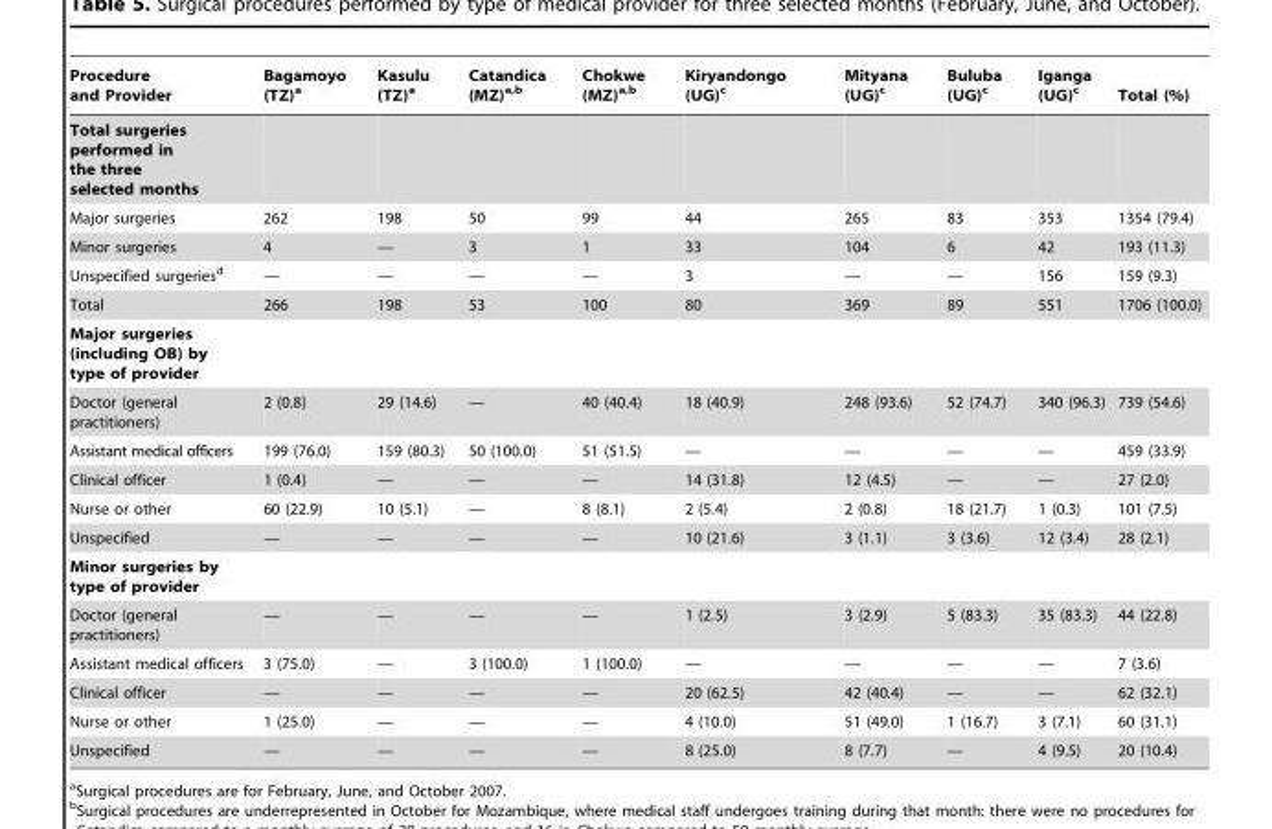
<table><thead><tr><td>Procedure and Provider</td><td>Bagamoyo (TZ)<sup>a</sup></td><td>Kasulu (TZ)<sup>a</sup></td><td>Catandica (MZ)a,b</td><td>Chokwe (MZ)a,b</td><td>Kiryandongo (UG)<sup>c</sup></td><td>Mityana (UG)<sup>c</sup></td><td>Buluba (UG)<sup>c</sup></td><td>Iganga (UG)<sup>c</sup></td><td>Total (%)</td></tr></thead><tbody><tr><td colspan="10">Total surgeries performed in the three selected months</td></tr><tr><td>Major surgeries</td><td>262</td><td>198</td><td>50</td><td>99</td><td>44</td><td>265</td><td>83</td><td>353</td><td>1354 (79.4)</td></tr><tr><td>Minor surgeries</td><td>4</td><td>—</td><td>3</td><td>1</td><td>33</td><td>104</td><td>6</td><td>42</td><td>193 (11.3)</td></tr><tr><td>Unspecified surgeries<sup>d</sup></td><td>—</td><td>—</td><td>—</td><td>—</td><td>3</td><td>—</td><td>—</td><td>156</td><td>159 (9.3)</td></tr><tr><td>Total</td><td>266</td><td>198</td><td>53</td><td>100</td><td>80</td><td>369</td><td>89</td><td>551</td><td>1706 (100.0)</td></tr><tr><td colspan="10">Major surgeries (including OB) by type of provider</td></tr><tr><td>Doctor (general practitioners)</td><td>2 (0.8)</td><td>29 (14.6)</td><td>—</td><td>40 (40.4)</td><td>18 (40.9)</td><td>248 (93.6)</td><td>52 (74.7)</td><td>340 (96.3)</td><td>739 (54.6)</td></tr><tr><td>Assistant medical officers</td><td>199 (76.0)</td><td>159 (80.3)</td><td>50 (100.0)</td><td>51 (51.5)</td><td>—</td><td>—</td><td>—</td><td>—</td><td>459 (33.9)</td></tr><tr><td>Clinical officer</td><td>1 (0.4)</td><td>—</td><td>—</td><td>—</td><td>14 (31.8)</td><td>12 (4.5)</td><td>—</td><td>—</td><td>27 (2.0)</td></tr><tr><td>Nurse or other</td><td>60 (22.9)</td><td>10 (5.1)</td><td>—</td><td>8 (8.1)</td><td>2 (5.4)</td><td>2 (0.8)</td><td>18 (21.7)</td><td>1 (0.3)</td><td>101 (7.5)</td></tr><tr><td>Unspecified</td><td>—</td><td>—</td><td>—</td><td>—</td><td>10 (21.6)</td><td>3 (1.1)</td><td>3 (3.6)</td><td>12 (3.4)</td><td>28 (2.1)</td></tr><tr><td colspan="10">Minor surgeries by type of provider</td></tr><tr><td>Doctor (general practitioners)</td><td>—</td><td>—</td><td>—</td><td>—</td><td>1 (2.5)</td><td>3 (2.9)</td><td>5 (83.3)</td><td>35 (83.3)</td><td>44 (22.8)</td></tr><tr><td>Assistant medical officers</td><td>3 (75.0)</td><td>—</td><td>3 (100.0)</td><td>1 (100.0)</td><td>—</td><td>—</td><td>—</td><td>—</td><td>7 (3.6)</td></tr><tr><td>Clinical officer</td><td>—</td><td>—</td><td>—</td><td>—</td><td>20 (62.5)</td><td>42 (40.4)</td><td>—</td><td>—</td><td>62 (32.1)</td></tr><tr><td>Nurse or other</td><td>1 (25.0)</td><td>—</td><td>—</td><td>—</td><td>4 (10.0)</td><td>51 (49.0)</td><td>1 (16.7)</td><td>3 (7.1)</td><td>60 (31.1)</td></tr><tr><td>Unspecified</td><td>—</td><td>—</td><td>—</td><td>—</td><td>8 (25.0)</td><td>8 (7.7)</td><td>—</td><td>4 (9.5)</td><td>20 (10.4)</td></tr></tbody></table>